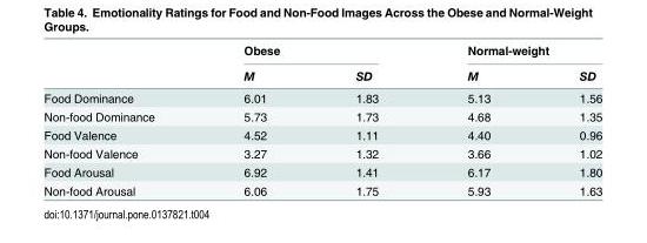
<table><thead><tr><td rowspan="2"></td><td colspan="2">Obese</td><td colspan="2">Normal-weight</td></tr><tr><td>M</td><td>SD</td><td>M</td><td>SD</td></tr></thead><tbody><tr><td>Food Dominance</td><td>6.01</td><td>1.83</td><td>5.13</td><td>1.56</td></tr><tr><td>Non-food Dominance</td><td>5.73</td><td>1.73</td><td>4.68</td><td>1.35</td></tr><tr><td>Food Valence</td><td>4.52</td><td>1.11</td><td>4.40</td><td>0.96</td></tr><tr><td>Non-food Valence</td><td>3.27</td><td>1.32</td><td>3.66</td><td>1.02</td></tr><tr><td>Food Arousal</td><td>6.92</td><td>1.41</td><td>6.17</td><td>1.80</td></tr><tr><td>Non-food Arousal</td><td>6.06</td><td>1.75</td><td>5.93</td><td>1.63</td></tr></tbody></table>